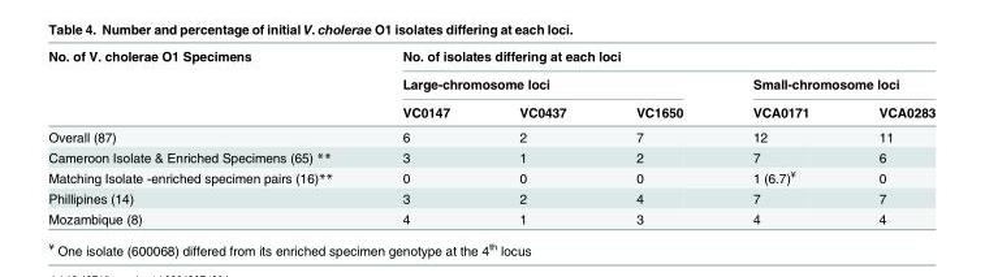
<table><thead><tr><td rowspan="3">No. of V. cholerae O1 Specimens</td><td colspan="5">No. of isolates differing at each loci</td></tr><tr><td colspan="3">Large-chromosome loci</td><td colspan="2">Small-chromosome loci</td></tr><tr><td>VC0147</td><td>VC0437</td><td>VC1650</td><td>VCA0171</td><td>VCA0283</td></tr></thead><tbody><tr><td>Overall (87)</td><td>6</td><td>2</td><td>7</td><td>12</td><td>11</td></tr><tr><td>Cameroon Isolate &amp; Enriched Specimens (65) **</td><td>3</td><td>1</td><td>2</td><td>7</td><td>6</td></tr><tr><td>Matching Isolate -enriched specimen pairs (16)**</td><td>0</td><td>0</td><td>0</td><td>1 (6.7)<sup>¥</sup></td><td>0</td></tr><tr><td>Phillipines (14)</td><td>3</td><td>2</td><td>4</td><td>7</td><td>7</td></tr><tr><td>Mozambique (8)</td><td>4</td><td>1</td><td>3</td><td>4</td><td>4</td></tr></tbody></table>